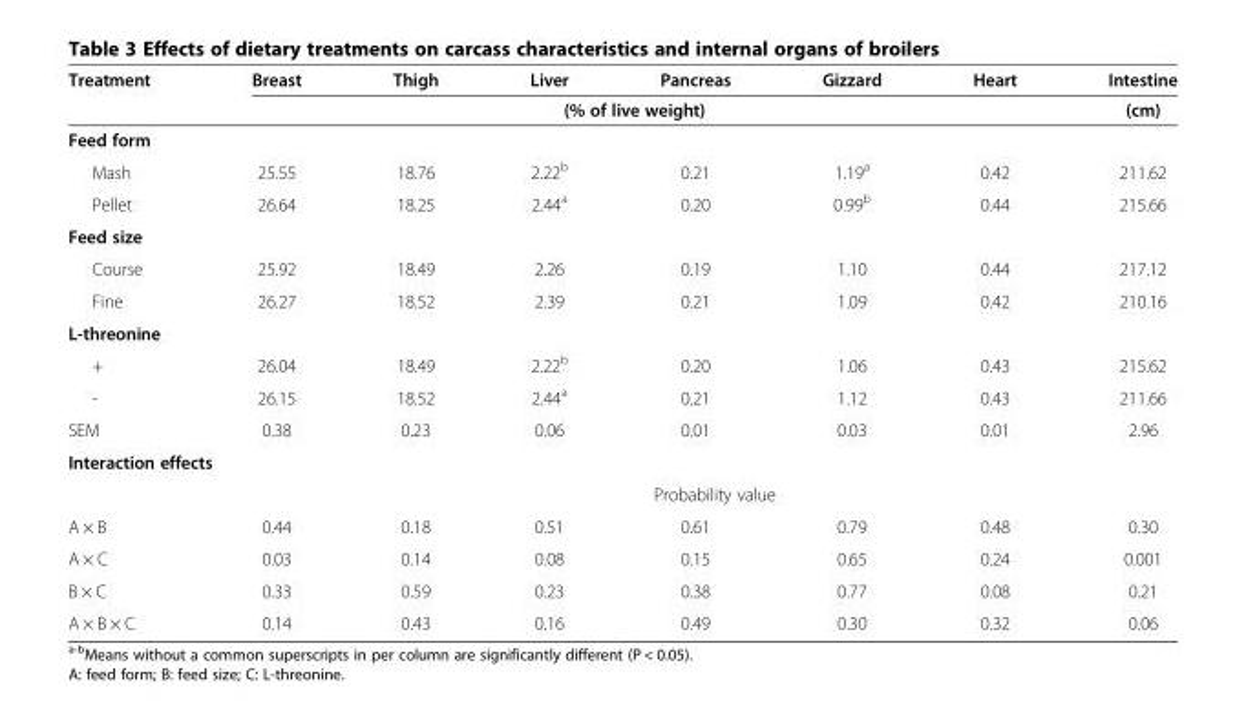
<table><thead><tr><td rowspan="2">Treatment</td><td>Breast</td><td>Thigh</td><td>Liver</td><td>Pancreas</td><td>Gizzard</td><td>Heart</td><td rowspan="2">Intestine (cm)</td></tr><tr><td colspan="6">(% of live weight)</td></tr></thead><tbody><tr><td colspan="8">Feed form</td></tr><tr><td>Mash</td><td>25.55</td><td>18.76</td><td>2.22<sup>b</sup></td><td>0.21</td><td>1.19<sup>a</sup></td><td>0.42</td><td>211.62</td></tr><tr><td>Pellet</td><td>26.64</td><td>18.25</td><td>2.44<sup>a</sup></td><td>0.20</td><td>0.99<sup>b</sup></td><td>0.44</td><td>215.66</td></tr><tr><td colspan="8">Feed size</td></tr><tr><td>Course</td><td>25.92</td><td>18.49</td><td>2.26</td><td>0.19</td><td>1.10</td><td>0.44</td><td>217.12</td></tr><tr><td>Fine</td><td>26.27</td><td>18.52</td><td>2.39</td><td>0.21</td><td>1.09</td><td>0.42</td><td>210.16</td></tr><tr><td colspan="8">L-threonine</td></tr><tr><td>+</td><td>26.04</td><td>18.49</td><td>2.22<sup>b</sup></td><td>0.20</td><td>1.06</td><td>0.43</td><td>215.62</td></tr><tr><td>-</td><td>26.15</td><td>18.52</td><td>2.44<sup>a</sup></td><td>0.21</td><td>1.12</td><td>0.43</td><td>211.66</td></tr><tr><td>SEM</td><td>0.38</td><td>0.23</td><td>0.06</td><td>0.01</td><td>0.03</td><td>0.01</td><td>2.96</td></tr><tr><td colspan="8">Interaction effects</td></tr><tr><td></td><td colspan="7">Probability value</td></tr><tr><td>A × B</td><td>0.44</td><td>0.18</td><td>0.51</td><td>0.61</td><td>0.79</td><td>0.48</td><td>0.30</td></tr><tr><td>A × C</td><td>0.03</td><td>0.14</td><td>0.08</td><td>0.15</td><td>0.65</td><td>0.24</td><td>0.001</td></tr><tr><td>B × C</td><td>0.33</td><td>0.59</td><td>0.23</td><td>0.38</td><td>0.77</td><td>0.08</td><td>0.21</td></tr><tr><td>A × B × C</td><td>0.14</td><td>0.43</td><td>0.16</td><td>0.49</td><td>0.30</td><td>0.32</td><td>0.06</td></tr></tbody></table>